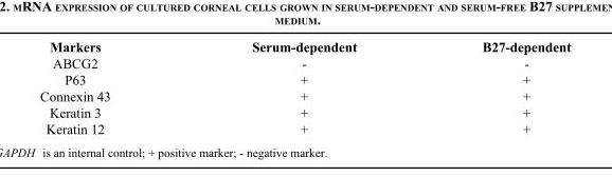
<table><thead><tr><td>Markers</td><td>Serum-dependent</td><td>B27-dependent</td></tr></thead><tbody><tr><td>ABCG2</td><td>-</td><td>-</td></tr><tr><td>P63</td><td>+</td><td>+</td></tr><tr><td>Connexin 43</td><td>+</td><td>+</td></tr><tr><td>Keratin 3</td><td>+</td><td>+</td></tr><tr><td>Keratin 12</td><td>+</td><td>+</td></tr></tbody></table>